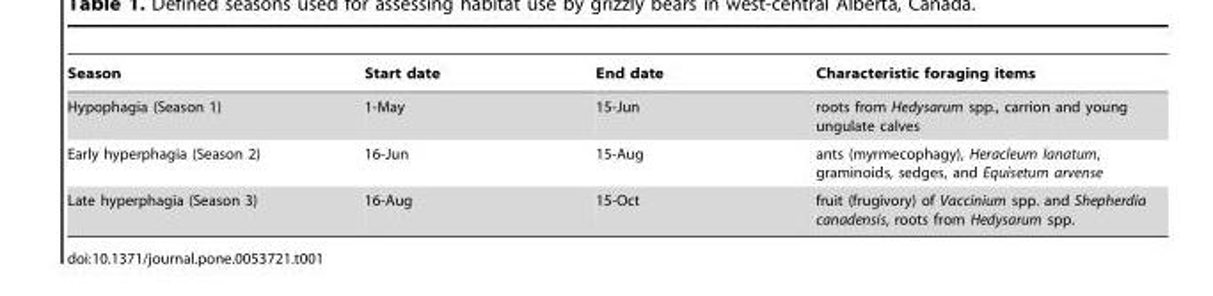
<table><thead><tr><td>Season</td><td>Start date</td><td>End date</td><td>Characteristic foraging items</td></tr></thead><tbody><tr><td>Hypophagia (Season 1)</td><td>1-May</td><td>15-Jun</td><td>roots from Hedysarum spp., carrion and young ungulate calves</td></tr><tr><td>Early hyperphagia (Season 2)</td><td>16-Jun</td><td>15-Aug</td><td>ants (myrmecophagy), Heracleum lanatum, graminoids, sedges, and Equisetum arvense</td></tr><tr><td>Late hyperphagia (Season 3)</td><td>16-Aug</td><td>15-Oct</td><td>fruit (frugivory) of Vaccinium spp. and Shepherdia canadensis, roots from Hedysarum spp.</td></tr></tbody></table>